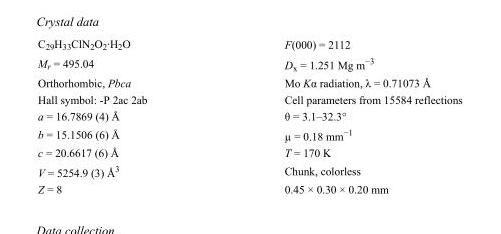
<table><tbody><tr><td>C<sub>29</sub>H<sub>33</sub>ClN<sub>2</sub>O<sub>2</sub>·H<sub>2</sub>O</td><td>F(000) = 2112</td></tr><tr><td>M<sub>r</sub> = 495.04</td><td>D<sub>x</sub> = 1.251 Mg m<sup>−3</sup></td></tr><tr><td>Orthorhombic, Pbca</td><td>Mo Kα radiation, λ = 0.71073 Å</td></tr><tr><td>Hall symbol: -P 2ac 2ab</td><td>Cell parameters from 15584 reflections</td></tr><tr><td>a = 16.7869 (4) Å</td><td>θ = 3.1–32.3°</td></tr><tr><td>b = 15.1506 (6) Å</td><td>µ = 0.18 mm<sup>−1</sup></td></tr><tr><td>c = 20.6617 (6) Å</td><td>T = 170 K</td></tr><tr><td>V = 5254.9 (3) Å<sup>3</sup></td><td>Chunk, colorless</td></tr><tr><td>Z = 8</td><td>0.45 × 0.30 × 0.20 mm</td></tr></tbody></table>